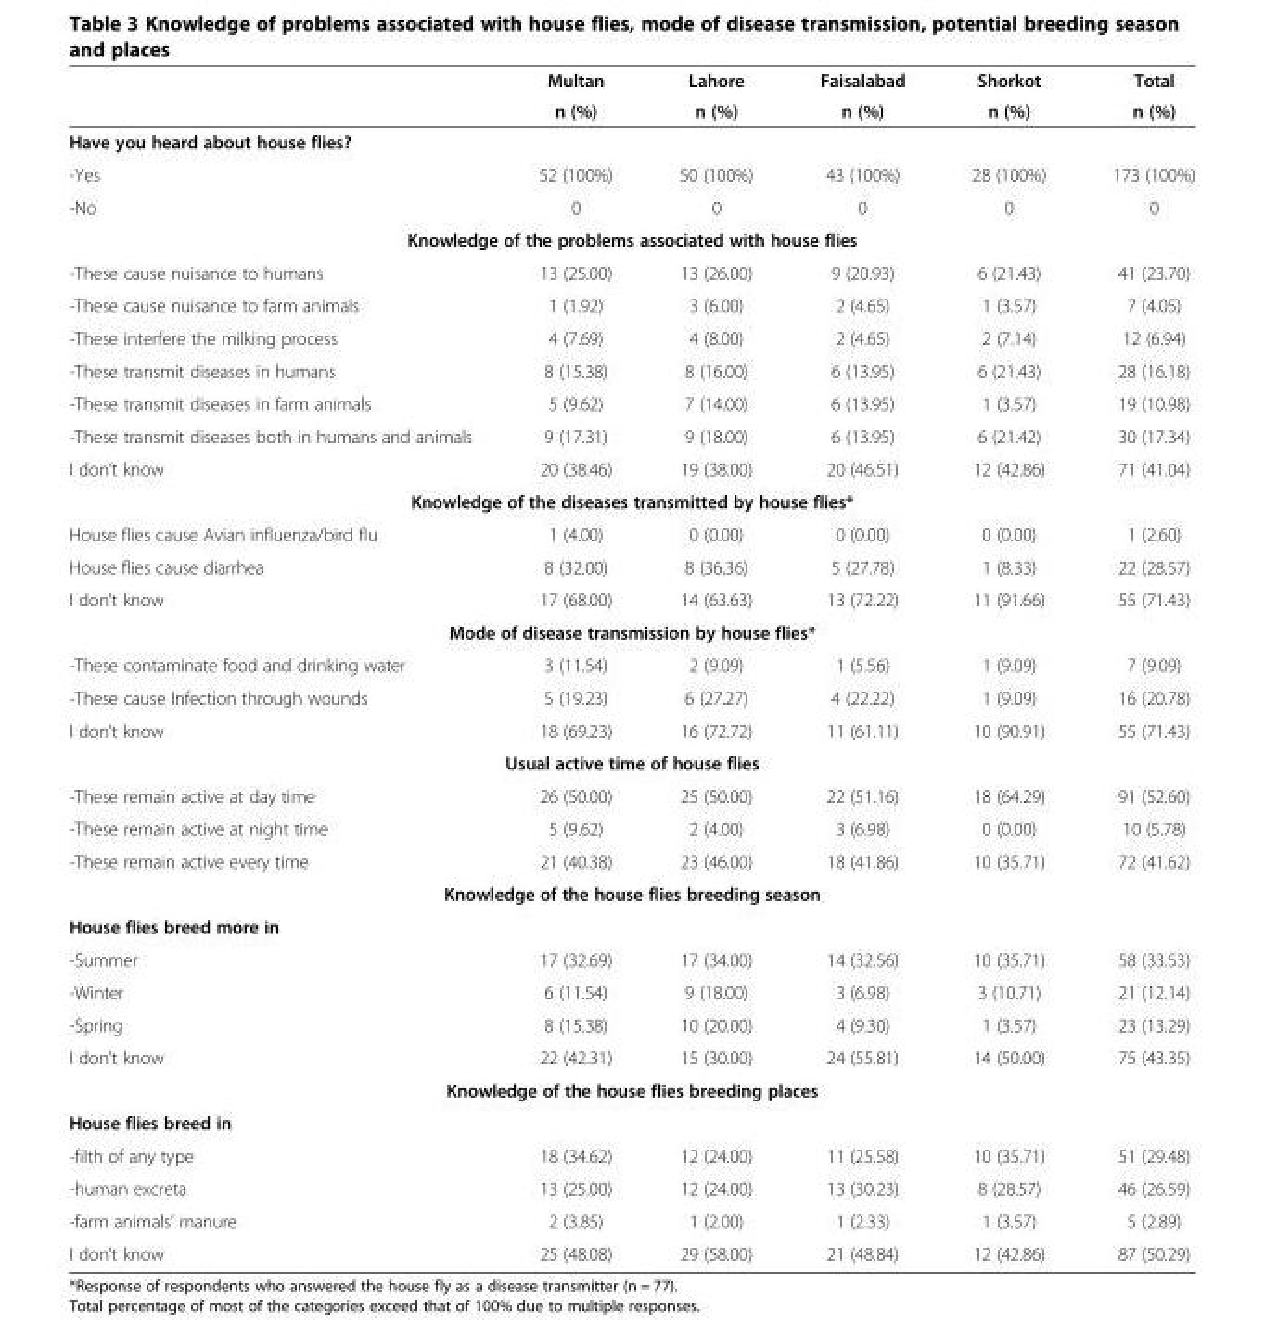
<table><thead><tr><td rowspan="2"></td><td rowspan="2">Multan n (%)</td><td rowspan="2">Lahore n (%)</td><td rowspan="2">Faisalabad n (%)</td><td rowspan="2">Shorkot n (%)</td><td rowspan="2">Total n (%)</td></tr><tr></tr></thead><tbody><tr><td colspan="6">Have you heard about house flies?</td></tr><tr><td>-Yes</td><td>52 (100%)</td><td>50 (100%)</td><td>43 (100%)</td><td>28 (100%)</td><td>173 (100%)</td></tr><tr><td>-No</td><td>0</td><td>0</td><td>0</td><td>0</td><td>0</td></tr><tr><td colspan="6">Knowledge of the problems associated with house flies</td></tr><tr><td>-These cause nuisance to humans</td><td>13 (25.00)</td><td>13 (26.00)</td><td>9 (20.93)</td><td>6 (21.43)</td><td>41 (23.70)</td></tr><tr><td>-These cause nuisance to farm animals</td><td>1 (1.92)</td><td>3 (6.00)</td><td>2 (4.65)</td><td>1 (3.57)</td><td>7 (4.05)</td></tr><tr><td>-These interfere the milking process</td><td>4 (7.69)</td><td>4 (8.00)</td><td>2 (4.65)</td><td>2 (7.14)</td><td>12 (6.94)</td></tr><tr><td>-These transmit diseases in humans</td><td>8 (15.38)</td><td>8 (16.00)</td><td>6 (13.95)</td><td>6 (21.43)</td><td>28 (16.18)</td></tr><tr><td>-These transmit diseases in farm animals</td><td>5 (9.62)</td><td>7 (14.00)</td><td>6 (13.95)</td><td>1 (3.57)</td><td>19 (10.98)</td></tr><tr><td>-These transmit diseases both in humans and animals</td><td>9 (17.31)</td><td>9 (18.00)</td><td>6 (13.95)</td><td>6 (21.42)</td><td>30 (17.34)</td></tr><tr><td>I don’t know</td><td>20 (38.46)</td><td>19 (38.00)</td><td>20 (46.51)</td><td>12 (42.86)</td><td>71 (41.04)</td></tr><tr><td colspan="6">Knowledge of the diseases transmitted by house flies*</td></tr><tr><td>House flies cause Avian influenza/bird flu</td><td>1 (4.00)</td><td>0 (0.00)</td><td>0 (0.00)</td><td>0 (0.00)</td><td>1 (2.60)</td></tr><tr><td>House flies cause diarrhea</td><td>8 (32.00)</td><td>8 (36.36)</td><td>5 (27.78)</td><td>1 (8.33)</td><td>22 (28.57)</td></tr><tr><td>I don’t know</td><td>17 (68.00)</td><td>14 (63.63)</td><td>13 (72.22)</td><td>11 (91.66)</td><td>55 (71.43)</td></tr><tr><td colspan="6">Mode of disease transmission by house flies*</td></tr><tr><td>-These contaminate food and drinking water</td><td>3 (11.54)</td><td>2 (9.09)</td><td>1 (5.56)</td><td>1 (9.09)</td><td>7 (9.09)</td></tr><tr><td>-These cause Infection through wounds</td><td>5 (19.23)</td><td>6 (27.27)</td><td>4 (22.22)</td><td>1 (9.09)</td><td>16 (20.78)</td></tr><tr><td>I don’t know</td><td>18 (69.23)</td><td>16 (72.72)</td><td>11 (61.11)</td><td>10 (90.91)</td><td>55 (71.43)</td></tr><tr><td colspan="6">Usual active time of house flies</td></tr><tr><td>-These remain active at day time</td><td>26 (50.00)</td><td>25 (50.00)</td><td>22 (51.16)</td><td>18 (64.29)</td><td>91 (52.60)</td></tr><tr><td>-These remain active at night time</td><td>5 (9.62)</td><td>2 (4.00)</td><td>3 (6.98)</td><td>0 (0.00)</td><td>10 (5.78)</td></tr><tr><td>-These remain active every time</td><td>21 (40.38)</td><td>23 (46.00)</td><td>18 (41.86)</td><td>10 (35.71)</td><td>72 (41.62)</td></tr><tr><td colspan="6">Knowledge of the house flies breeding season</td></tr><tr><td colspan="6">House flies breed more in</td></tr><tr><td>-Summer</td><td>17 (32.69)</td><td>17 (34.00)</td><td>14 (32.56)</td><td>10 (35.71)</td><td>58 (33.53)</td></tr><tr><td>-Winter</td><td>6 (11.54)</td><td>9 (18.00)</td><td>3 (6.98)</td><td>3 (10.71)</td><td>21 (12.14)</td></tr><tr><td>-Spring</td><td>8 (15.38)</td><td>10 (20.00)</td><td>4 (9.30)</td><td>1 (3.57)</td><td>23 (13.29)</td></tr><tr><td>I don’t know</td><td>22 (42.31)</td><td>15 (30.00)</td><td>24 (55.81)</td><td>14 (50.00)</td><td>75 (43.35)</td></tr><tr><td colspan="6">Knowledge of the house flies breeding places</td></tr><tr><td colspan="6">House flies breed in</td></tr><tr><td>-filth of any type</td><td>18 (34.62)</td><td>12 (24.00)</td><td>11 (25.58)</td><td>10 (35.71)</td><td>51 (29.48)</td></tr><tr><td>-human excreta</td><td>13 (25.00)</td><td>12 (24.00)</td><td>13 (30.23)</td><td>8 (28.57)</td><td>46 (26.59)</td></tr><tr><td>-farm animals’ manure</td><td>2 (3.85)</td><td>1 (2.00)</td><td>1 (2.33)</td><td>1 (3.57)</td><td>5 (2.89)</td></tr><tr><td>I don’t know</td><td>25 (48.08)</td><td>29 (58.00)</td><td>21 (48.84)</td><td>12 (42.86)</td><td>87 (50.29)</td></tr></tbody></table>